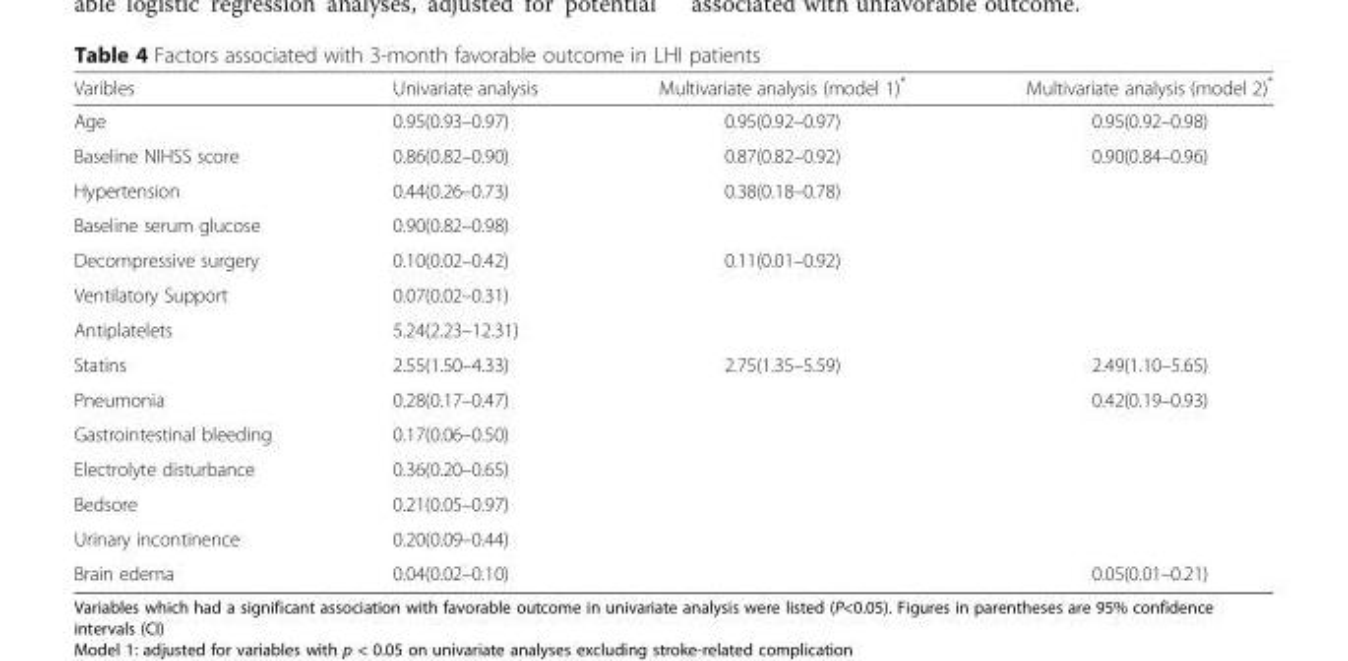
<table><thead><tr><td>Varibles</td><td>Univariate analysis</td><td>Multivariate analysis (model 1)*</td><td>Multivariate analysis (model 2)*</td></tr></thead><tbody><tr><td>Age</td><td>0.95(0.93–0.97)</td><td>0.95(0.92–0.97)</td><td>0.95(0.92–0.98)</td></tr><tr><td>Baseline NIHSS score</td><td>0.86(0.82–0.90)</td><td>0.87(0.82–0.92)</td><td>0.90(0.84–0.96)</td></tr><tr><td>Hypertension</td><td>0.44(0.26–0.73)</td><td>0.38(0.18–0.78)</td><td></td></tr><tr><td>Baseline serum glucose</td><td>0.90(0.82–0.98)</td><td></td><td></td></tr><tr><td>Decompressive surgery</td><td>0.10(0.02–0.42)</td><td>0.11(0.01–0.92)</td><td></td></tr><tr><td>Ventilatory Support</td><td>0.07(0.02–0.31)</td><td></td><td></td></tr><tr><td>Antiplatelets</td><td>5.24(2.23–12.31)</td><td></td><td></td></tr><tr><td>Statins</td><td>2.55(1.50–4.33)</td><td>2.75(1.35–5.59)</td><td>2.49(1.10–5.65)</td></tr><tr><td>Pneumonia</td><td>0.28(0.17–0.47)</td><td></td><td>0.42(0.19–0.93)</td></tr><tr><td>Gastrointestinal bleeding</td><td>0.17(0.06–0.50)</td><td></td><td></td></tr><tr><td>Electrolyte disturbance</td><td>0.36(0.20–0.65)</td><td></td><td></td></tr><tr><td>Bedsore</td><td>0.21(0.05–0.97)</td><td></td><td></td></tr><tr><td>Urinary incontinence</td><td>0.20(0.09–0.44)</td><td></td><td></td></tr><tr><td>Brain edema</td><td>0.04(0.02–0.10)</td><td></td><td>0.05(0.01–0.21)</td></tr></tbody></table>